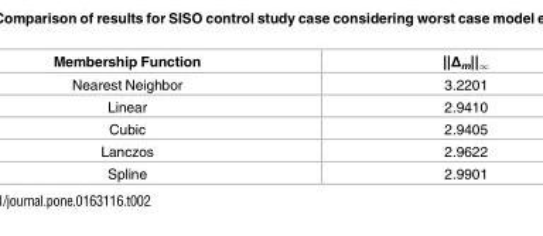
<table><thead><tr><td>Membership Function</td><td>||Δ<sub>m</sub>||<sub>∞</sub></td></tr></thead><tbody><tr><td>Nearest Neighbor</td><td>3.2201</td></tr><tr><td>Linear</td><td>2.9410</td></tr><tr><td>Cubic</td><td>2.9405</td></tr><tr><td>Lanczos</td><td>2.9622</td></tr><tr><td>Spline</td><td>2.9901</td></tr></tbody></table>